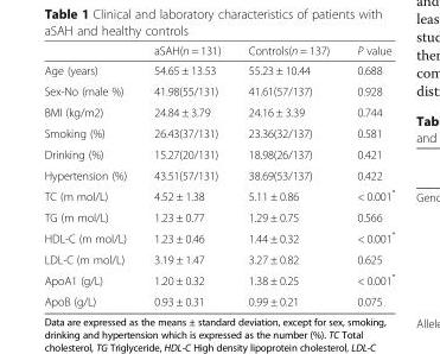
<table><thead><tr><td></td><td>aSAH(n = 131)</td><td>Controls(n = 137)</td><td>P value</td></tr></thead><tbody><tr><td>Age (years)</td><td>54.65 ± 13.53</td><td>55.23 ± 10.44</td><td>0.688</td></tr><tr><td>Sex-No (male %)</td><td>41.98(55/131)</td><td>41.61(57/137)</td><td>0.928</td></tr><tr><td>BMI (kg/m2)</td><td>24.84 ± 3.79</td><td>24.16 ± 3.39</td><td>0.744</td></tr><tr><td>Smoking (%)</td><td>26.43(37/131)</td><td>23.36(32/137)</td><td>0.581</td></tr><tr><td>Drinking (%)</td><td>15.27(20/131)</td><td>18.98(26/137)</td><td>0.421</td></tr><tr><td>Hypertension (%)</td><td>43.51(57/131)</td><td>38.69(53/137)</td><td>0.422</td></tr><tr><td>TC (m mol/L)</td><td>4.52 ± 1.38</td><td>5.11 ± 0.86</td><td>&lt; 0.001*</td></tr><tr><td>TG (m mol/L)</td><td>1.23 ± 0.77</td><td>1.29 ± 0.75</td><td>0.566</td></tr><tr><td>HDL-C (m mol/L)</td><td>1.23 ± 0.46</td><td>1.44 ± 0.32</td><td>&lt; 0.001*</td></tr><tr><td>LDL-C (m mol/L)</td><td>3.19 ± 1.47</td><td>3.27 ± 0.82</td><td>0.625</td></tr><tr><td>ApoA1 (g/L)</td><td>1.20 ± 0.32</td><td>1.38 ± 0.25</td><td>&lt; 0.001*</td></tr><tr><td>ApoB (g/L)</td><td>0.93 ± 0.31</td><td>0.99 ± 0.21</td><td>0.075</td></tr></tbody></table>